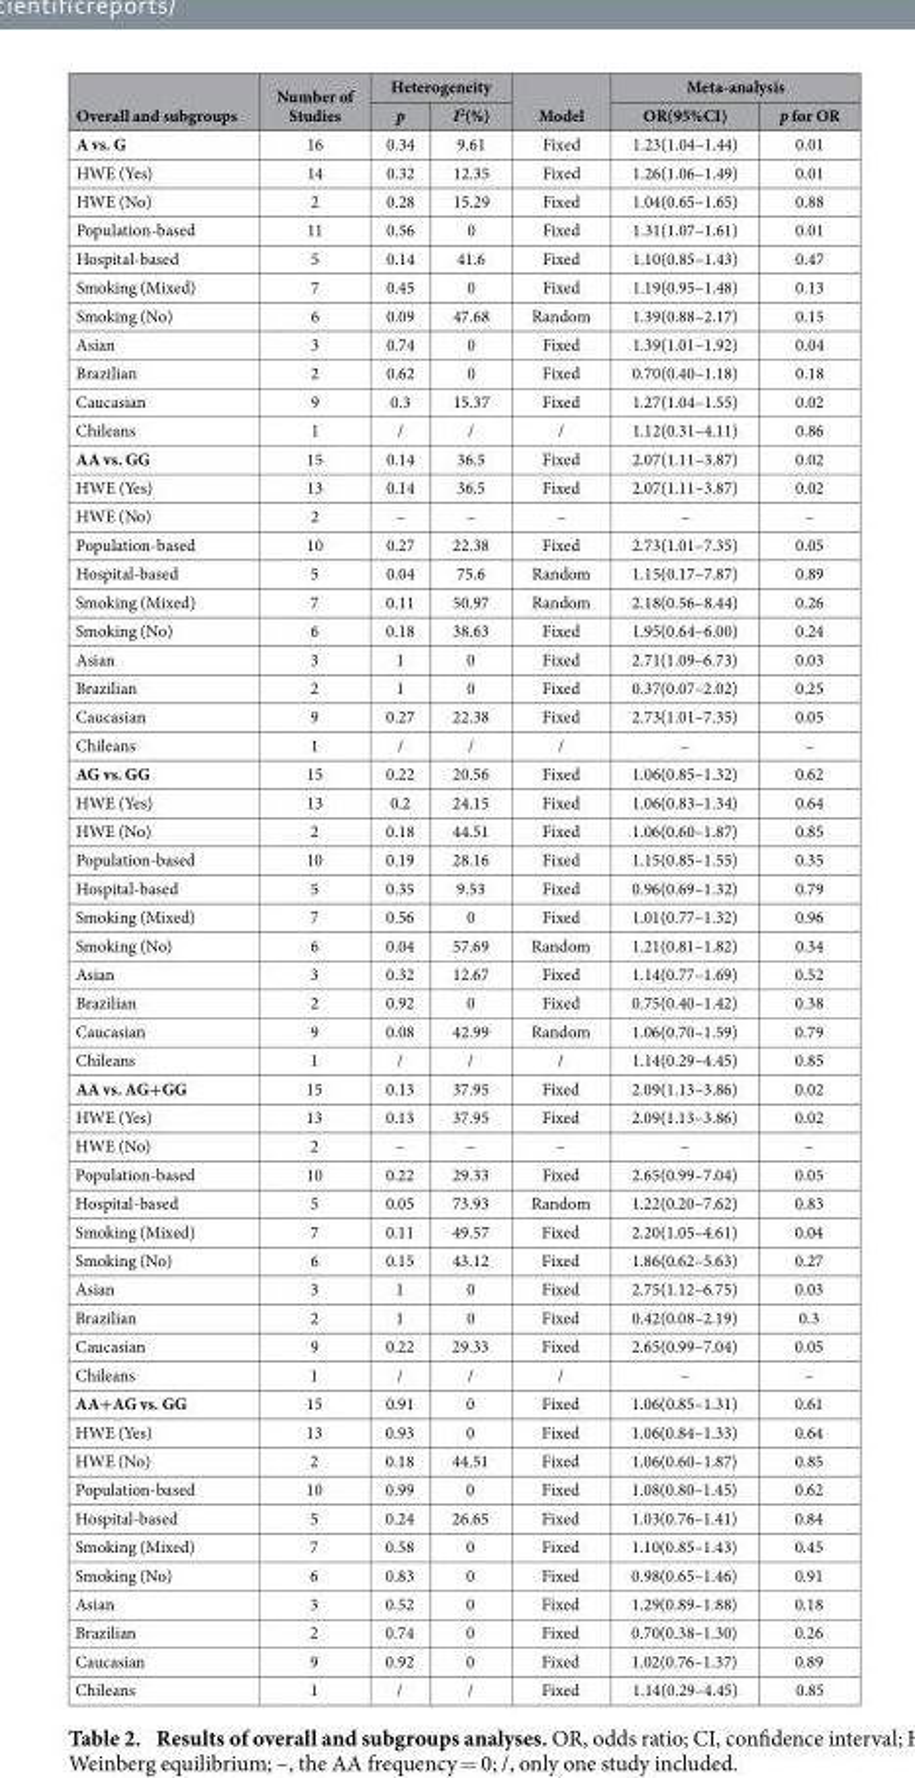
<table><thead><tr><td rowspan="2">Overall and subgroups</td><td rowspan="2">Number of Studies</td><td colspan="2">Heterogeneity</td><td rowspan="2">Model</td><td colspan="2">Meta-analysis</td></tr><tr><td>p</td><td>I<sup>2</sup>(%)</td><td>OR(95%CI)</td><td>p for OR</td></tr></thead><tbody><tr><td>A vs. G</td><td>16</td><td>0.34</td><td>9.61</td><td>Fixed</td><td>1.23(1.04–1.44)</td><td>0.01</td></tr><tr><td>HWE (Yes)</td><td>14</td><td>0.32</td><td>12.35</td><td>Fixed</td><td>1.26(1.06–1.49)</td><td>0.01</td></tr><tr><td>HWE (No)</td><td>2</td><td>0.28</td><td>15.29</td><td>Fixed</td><td>1.04(0.65–1.65)</td><td>0.88</td></tr><tr><td>Population-based</td><td>11</td><td>0.56</td><td>0</td><td>Fixed</td><td>1.31(1.07–1.61)</td><td>0.01</td></tr><tr><td>Hospital-based</td><td>5</td><td>0.14</td><td>41.6</td><td>Fixed</td><td>1.10(0.85–1.43)</td><td>0.47</td></tr><tr><td>Smoking (Mixed)</td><td>7</td><td>0.45</td><td>0</td><td>Fixed</td><td>1.19(0.95–1.48)</td><td>0.13</td></tr><tr><td>Smoking (No)</td><td>6</td><td>0.09</td><td>47.68</td><td>Random</td><td>1.39(0.88–2.17)</td><td>0.15</td></tr><tr><td>Asian</td><td>3</td><td>0.74</td><td>0</td><td>Fixed</td><td>1.39(1.01–1.92)</td><td>0.04</td></tr><tr><td>Brazilian</td><td>2</td><td>0.62</td><td>0</td><td>Fixed</td><td>0.70(0.40–1.18)</td><td>0.18</td></tr><tr><td>Caucasian</td><td>9</td><td>0.3</td><td>15.37</td><td>Fixed</td><td>1.27(1.04–1.55)</td><td>0.02</td></tr><tr><td>Chileans</td><td>1</td><td>/</td><td>/</td><td>/</td><td>1.12(0.31–4.11)</td><td>0.86</td></tr><tr><td>AA vs. GG</td><td>15</td><td>0.14</td><td>36.5</td><td>Fixed</td><td>2.07(1.11–3.87)</td><td>0.02</td></tr><tr><td>HWE (Yes)</td><td>13</td><td>0.14</td><td>36.5</td><td>Fixed</td><td>2.07(1.11–3.87)</td><td>0.02</td></tr><tr><td>HWE (No)</td><td>2</td><td>–</td><td>–</td><td>–</td><td>–</td><td>–</td></tr><tr><td>Population-based</td><td>10</td><td>0.27</td><td>22.38</td><td>Fixed</td><td>2.73(1.01–7.35)</td><td>0.05</td></tr><tr><td>Hospital-based</td><td>5</td><td>0.04</td><td>75.6</td><td>Random</td><td>1.15(0.17–7.87)</td><td>0.89</td></tr><tr><td>Smoking (Mixed)</td><td>7</td><td>0.11</td><td>50.97</td><td>Random</td><td>2.18(0.56–8.44)</td><td>0.26</td></tr><tr><td>Smoking (No)</td><td>6</td><td>0.18</td><td>38.63</td><td>Fixed</td><td>1.95(0.64–6.00)</td><td>0.24</td></tr><tr><td>Asian</td><td>3</td><td>1</td><td>0</td><td>Fixed</td><td>2.71(1.09–6.73)</td><td>0.03</td></tr><tr><td>Brazilian</td><td>2</td><td>1</td><td>0</td><td>Fixed</td><td>0.37(0.07–2.02)</td><td>0.25</td></tr><tr><td>Caucasian</td><td>9</td><td>0.27</td><td>22.38</td><td>Fixed</td><td>2.73(1.01–7.35)</td><td>0.05</td></tr><tr><td>Chileans</td><td>1</td><td>/</td><td>/</td><td>/</td><td>–</td><td>–</td></tr><tr><td>AG vs. GG</td><td>15</td><td>0.22</td><td>20.56</td><td>Fixed</td><td>1.06(0.85–1.32)</td><td>0.62</td></tr><tr><td>HWE (Yes)</td><td>13</td><td>0.2</td><td>24.15</td><td>Fixed</td><td>1.06(0.83–1.34)</td><td>0.64</td></tr><tr><td>HWE (No)</td><td>2</td><td>0.18</td><td>44.51</td><td>Fixed</td><td>1.06(0.60–1.87)</td><td>0.85</td></tr><tr><td>Population-based</td><td>10</td><td>0.19</td><td>28.16</td><td>Fixed</td><td>1.15(0.85–1.55)</td><td>0.35</td></tr><tr><td>Hospital-based</td><td>5</td><td>0.35</td><td>9.53</td><td>Fixed</td><td>0.96(0.69–1.32)</td><td>0.79</td></tr><tr><td>Smoking (Mixed)</td><td>7</td><td>0.56</td><td>0</td><td>Fixed</td><td>1.01(0.77–1.32)</td><td>0.96</td></tr><tr><td>Smoking (No)</td><td>6</td><td>0.04</td><td>57.69</td><td>Random</td><td>1.21(0.81–1.82)</td><td>0.34</td></tr><tr><td>Asian</td><td>3</td><td>0.32</td><td>12.67</td><td>Fixed</td><td>1.14(0.77–1.69)</td><td>0.52</td></tr><tr><td>Brazilian</td><td>2</td><td>0.92</td><td>0</td><td>Fixed</td><td>0.75(0.40–1.42)</td><td>0.38</td></tr><tr><td>Caucasian</td><td>9</td><td>0.08</td><td>42.99</td><td>Random</td><td>1.06(0.70–1.59)</td><td>0.79</td></tr><tr><td>Chileans</td><td>1</td><td>/</td><td>/</td><td>/</td><td>1.14(0.29–4.45)</td><td>0.85</td></tr><tr><td>AA vs. AG+GG</td><td>15</td><td>0.13</td><td>37.95</td><td>Fixed</td><td>2.09(1.13–3.86)</td><td>0.02</td></tr><tr><td>HWE (Yes)</td><td>13</td><td>0.13</td><td>37.95</td><td>Fixed</td><td>2.09(1.13–3.86)</td><td>0.02</td></tr><tr><td>HWE (No)</td><td>2</td><td>–</td><td>–</td><td>–</td><td>–</td><td>–</td></tr><tr><td>Population-based</td><td>10</td><td>0.22</td><td>29.33</td><td>Fixed</td><td>2.65(0.99–7.04)</td><td>0.05</td></tr><tr><td>Hospital-based</td><td>5</td><td>0.05</td><td>73.93</td><td>Random</td><td>1.22(0.20–7.62)</td><td>0.83</td></tr><tr><td>Smoking (Mixed)</td><td>7</td><td>0.11</td><td>49.57</td><td>Fixed</td><td>2.20(1.05–4.61)</td><td>0.04</td></tr><tr><td>Smoking (No)</td><td>6</td><td>0.15</td><td>43.12</td><td>Fixed</td><td>1.86(0.62–5.63)</td><td>0.27</td></tr><tr><td>Asian</td><td>3</td><td>1</td><td>0</td><td>Fixed</td><td>2.75(1.12–6.75)</td><td>0.03</td></tr><tr><td>Brazilian</td><td>2</td><td>1</td><td>0</td><td>Fixed</td><td>0.42(0.08–2.19)</td><td>0.3</td></tr><tr><td>Caucasian</td><td>9</td><td>0.22</td><td>29.33</td><td>Fixed</td><td>2.65(0.99–7.04)</td><td>0.05</td></tr><tr><td>Chileans</td><td>1</td><td>/</td><td>/</td><td>/</td><td>–</td><td>–</td></tr><tr><td>AA+AG vs. GG</td><td>15</td><td>0.91</td><td>0</td><td>Fixed</td><td>1.06(0.85–1.31)</td><td>0.61</td></tr><tr><td>HWE (Yes)</td><td>13</td><td>0.93</td><td>0</td><td>Fixed</td><td>1.06(0.84–1.33)</td><td>0.64</td></tr><tr><td>HWE (No)</td><td>2</td><td>0.18</td><td>44.51</td><td>Fixed</td><td>1.06(0.60–1.87)</td><td>0.85</td></tr><tr><td>Population-based</td><td>10</td><td>0.99</td><td>0</td><td>Fixed</td><td>1.08(0.80–1.45)</td><td>0.62</td></tr><tr><td>Hospital-based</td><td>5</td><td>0.24</td><td>26.65</td><td>Fixed</td><td>1.03(0.76–1.41)</td><td>0.84</td></tr><tr><td>Smoking (Mixed)</td><td>7</td><td>0.58</td><td>0</td><td>Fixed</td><td>1.10(0.85–1.43)</td><td>0.45</td></tr><tr><td>Smoking (No)</td><td>6</td><td>0.83</td><td>0</td><td>Fixed</td><td>0.98(0.65–1.46)</td><td>0.91</td></tr><tr><td>Asian</td><td>3</td><td>0.52</td><td>0</td><td>Fixed</td><td>1.29(0.89–1.88)</td><td>0.18</td></tr><tr><td>Brazilian</td><td>2</td><td>0.74</td><td>0</td><td>Fixed</td><td>0.70(0.38–1.30)</td><td>0.26</td></tr><tr><td>Caucasian</td><td>9</td><td>0.92</td><td>0</td><td>Fixed</td><td>1.02(0.76–1.37)</td><td>0.89</td></tr><tr><td>Chileans</td><td>1</td><td>/</td><td>/</td><td>Fixed</td><td>1.14(0.29–4.45)</td><td>0.85</td></tr></tbody></table>